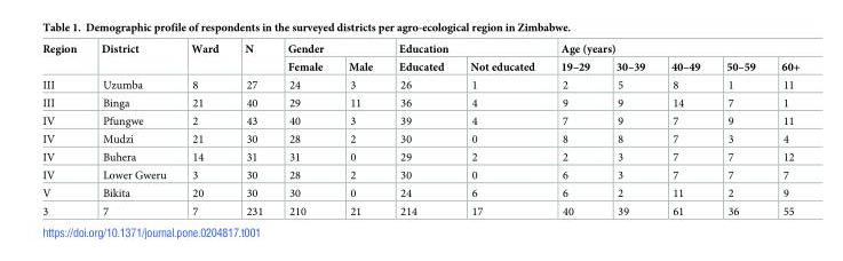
<table><thead><tr><td rowspan="2">Region</td><td rowspan="2">District</td><td rowspan="2">Ward</td><td rowspan="2">N</td><td colspan="2">Gender</td><td colspan="2">Education</td><td colspan="5">Age (years)</td></tr><tr><td>Female</td><td>Male</td><td>Educated</td><td>Not educated</td><td>19–29</td><td>30–39</td><td>40–49</td><td>50–59</td><td>60+</td></tr></thead><tbody><tr><td>III</td><td>Uzumba</td><td>8</td><td>27</td><td>24</td><td>3</td><td>26</td><td>1</td><td>2</td><td>5</td><td>8</td><td>1</td><td>11</td></tr><tr><td>III</td><td>Binga</td><td>21</td><td>40</td><td>29</td><td>11</td><td>36</td><td>4</td><td>9</td><td>9</td><td>14</td><td>7</td><td>1</td></tr><tr><td>IV</td><td>Pfungwe</td><td>2</td><td>43</td><td>40</td><td>3</td><td>39</td><td>4</td><td>7</td><td>9</td><td>7</td><td>9</td><td>11</td></tr><tr><td>IV</td><td>Mudzi</td><td>21</td><td>30</td><td>28</td><td>2</td><td>30</td><td>0</td><td>8</td><td>8</td><td>7</td><td>3</td><td>4</td></tr><tr><td>IV</td><td>Buhera</td><td>14</td><td>31</td><td>31</td><td>0</td><td>29</td><td>2</td><td>2</td><td>3</td><td>7</td><td>7</td><td>12</td></tr><tr><td>IV</td><td>Lower Gweru</td><td>3</td><td>30</td><td>28</td><td>2</td><td>30</td><td>0</td><td>6</td><td>3</td><td>7</td><td>7</td><td>7</td></tr><tr><td>V</td><td>Bikita</td><td>20</td><td>30</td><td>30</td><td>0</td><td>24</td><td>6</td><td>6</td><td>2</td><td>11</td><td>2</td><td>9</td></tr><tr><td>3</td><td>7</td><td>7</td><td>231</td><td>210</td><td>21</td><td>214</td><td>17</td><td>40</td><td>39</td><td>61</td><td>36</td><td>55</td></tr></tbody></table>